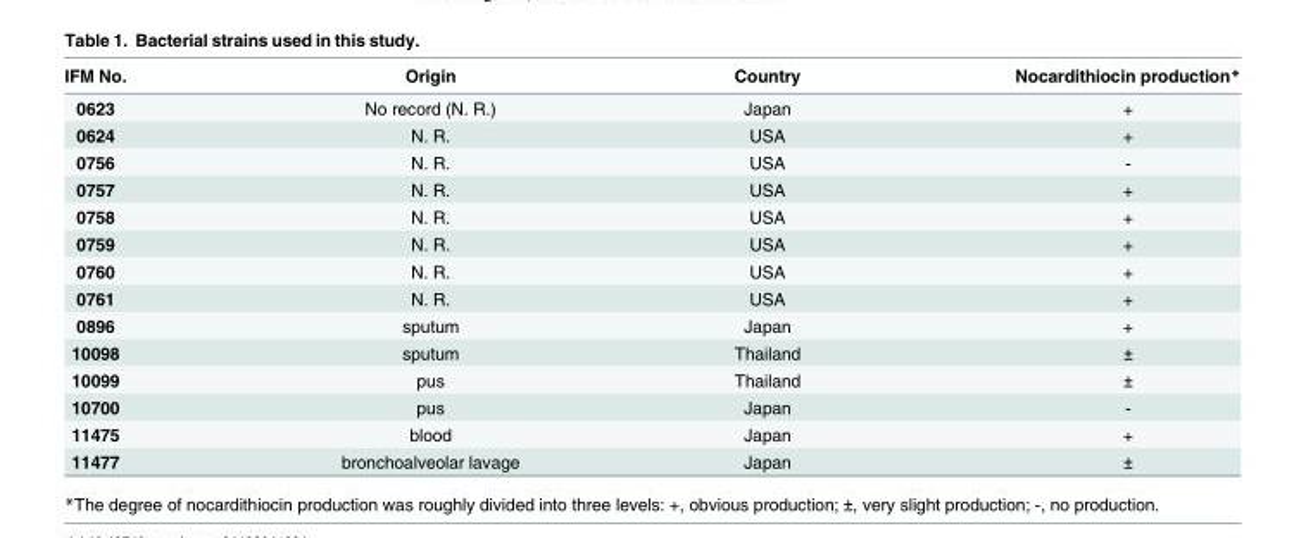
<table><thead><tr><td>IFM No.</td><td>Origin</td><td>Country</td><td>Nocardithiocin production*</td></tr></thead><tbody><tr><td>0623</td><td>No record (N. R.)</td><td>Japan</td><td>+</td></tr><tr><td>0624</td><td>N. R.</td><td>USA</td><td>+</td></tr><tr><td>0756</td><td>N. R.</td><td>USA</td><td>-</td></tr><tr><td>0757</td><td>N. R.</td><td>USA</td><td>+</td></tr><tr><td>0758</td><td>N. R.</td><td>USA</td><td>+</td></tr><tr><td>0759</td><td>N. R.</td><td>USA</td><td>+</td></tr><tr><td>0760</td><td>N. R.</td><td>USA</td><td>+</td></tr><tr><td>0761</td><td>N. R.</td><td>USA</td><td>+</td></tr><tr><td>0896</td><td>sputum</td><td>Japan</td><td>+</td></tr><tr><td>10098</td><td>sputum</td><td>Thailand</td><td>±</td></tr><tr><td>10099</td><td>pus</td><td>Thailand</td><td>±</td></tr><tr><td>10700</td><td>pus</td><td>Japan</td><td>-</td></tr><tr><td>11475</td><td>blood</td><td>Japan</td><td>+</td></tr><tr><td>11477</td><td>bronchoalveolar lavage</td><td>Japan</td><td>±</td></tr></tbody></table>